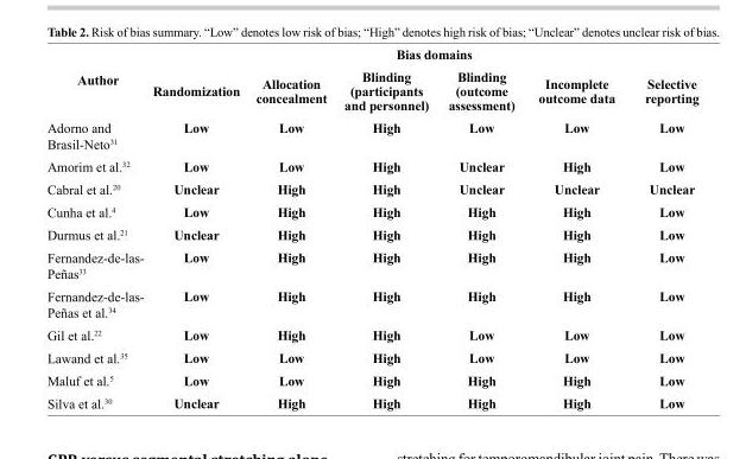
<table><thead><tr><td rowspan="2">Author</td><td colspan="6">Bias domains</td></tr><tr><td>Randomization</td><td>Allocation concealment</td><td>Blinding (participants and personnel)</td><td>Blinding (outcome assessment)</td><td>Incomplete outcome data</td><td>Selective reporting</td></tr></thead><tbody><tr><td>Adorno and Brasil-Neto<sup>31</sup></td><td>Low</td><td>Low</td><td>High</td><td>Low</td><td>Low</td><td>Low</td></tr><tr><td>Amorim et al.<sup>32</sup></td><td>Low</td><td>Low</td><td>High</td><td>Unclear</td><td>High</td><td>Low</td></tr><tr><td>Cabral et al.<sup>20</sup></td><td>Unclear</td><td>High</td><td>High</td><td>Unclear</td><td>Unclear</td><td>Unclear</td></tr><tr><td>Cunha et al.<sup>4</sup></td><td>Low</td><td>High</td><td>High</td><td>High</td><td>High</td><td>Low</td></tr><tr><td>Durmus et al.<sup>21</sup></td><td>Unclear</td><td>High</td><td>High</td><td>High</td><td>High</td><td>Low</td></tr><tr><td>Fernandez-de-las- Peñas<sup>33</sup></td><td>Low</td><td>High</td><td>High</td><td>High</td><td>High</td><td>Low</td></tr><tr><td>Fernandez-de-las- Peñas et al.<sup>34</sup></td><td>Low</td><td>High</td><td>High</td><td>High</td><td>High</td><td>Low</td></tr><tr><td>Gil et al.<sup>22</sup></td><td>Low</td><td>High</td><td>High</td><td>Low</td><td>Low</td><td>Low</td></tr><tr><td>Lawand et al.<sup>35</sup></td><td>Low</td><td>Low</td><td>High</td><td>Low</td><td>Low</td><td>Low</td></tr><tr><td>Maluf et al.<sup>5</sup></td><td>Low</td><td>Low</td><td>High</td><td>High</td><td>High</td><td>Low</td></tr><tr><td>Silva et al.<sup>30</sup></td><td>Unclear</td><td>High</td><td>High</td><td>High</td><td>High</td><td>Low</td></tr></tbody></table>